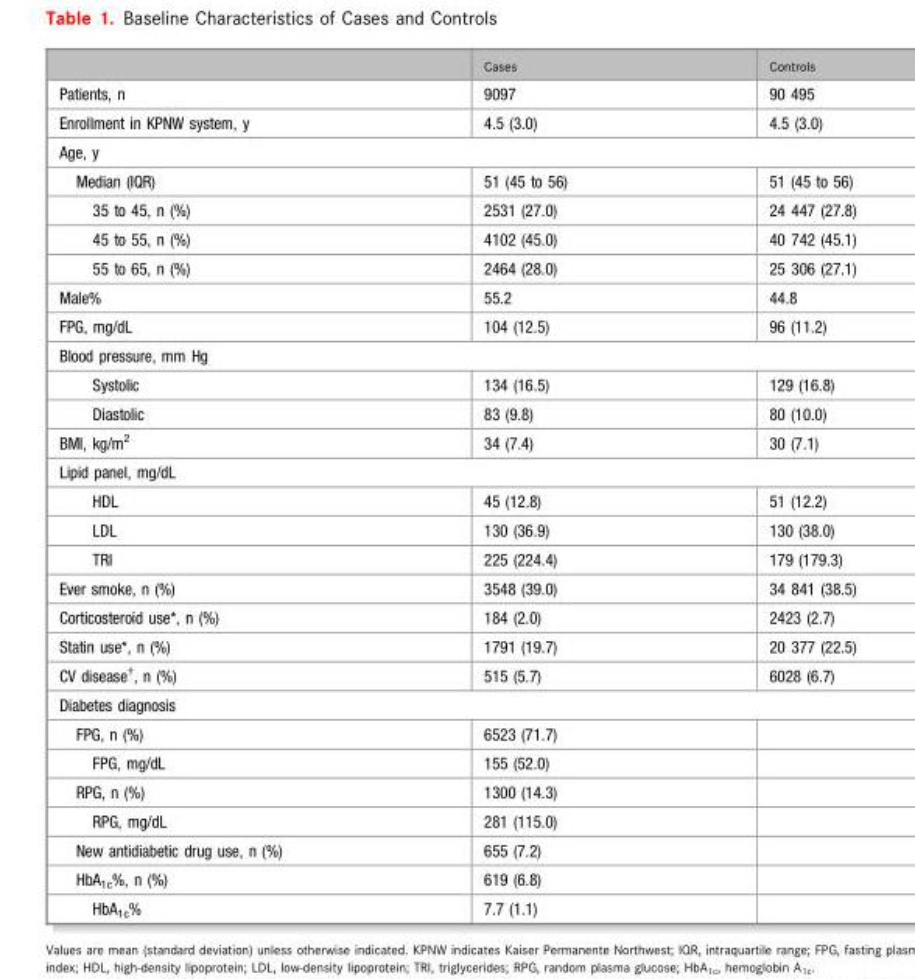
<table><thead><tr><td></td><td>Cases</td><td>Controls</td></tr></thead><tbody><tr><td>Patients, n</td><td>9097</td><td>90 495</td></tr><tr><td>Enrollment in KPNW system, y</td><td>4.5 (3.0)</td><td>4.5 (3.0)</td></tr><tr><td colspan="3">Age, y</td></tr><tr><td>Median (IQR)</td><td>51 (45 to 56)</td><td>51 (45 to 56)</td></tr><tr><td>35 to 45, n (%)</td><td>2531 (27.0)</td><td>24 447 (27.8)</td></tr><tr><td>45 to 55, n (%)</td><td>4102 (45.0)</td><td>40 742 (45.1)</td></tr><tr><td>55 to 65, n (%)</td><td>2464 (28.0)</td><td>25 306 (27.1)</td></tr><tr><td>Male%</td><td>55.2</td><td>44.8</td></tr><tr><td>FPG, mg/dL</td><td>104 (12.5)</td><td>96 (11.2)</td></tr><tr><td colspan="3">Blood pressure, mm Hg</td></tr><tr><td>Systolic</td><td>134 (16.5)</td><td>129 (16.8)</td></tr><tr><td>Diastolic</td><td>83 (9.8)</td><td>80 (10.0)</td></tr><tr><td>BMI, kg/m<sup>2</sup></td><td>34 (7.4)</td><td>30 (7.1)</td></tr><tr><td colspan="3">Lipid panel, mg/dL</td></tr><tr><td>HDL</td><td>45 (12.8)</td><td>51 (12.2)</td></tr><tr><td>LDL</td><td>130 (36.9)</td><td>130 (38.0)</td></tr><tr><td>TRI</td><td>225 (224.4)</td><td>179 (179.3)</td></tr><tr><td>Ever smoke, n (%)</td><td>3548 (39.0)</td><td>34 841 (38.5)</td></tr><tr><td>Corticosteroid use*, n (%)</td><td>184 (2.0)</td><td>2423 (2.7)</td></tr><tr><td>Statin use*, n (%)</td><td>1791 (19.7)</td><td>20 377 (22.5)</td></tr><tr><td>CV disease†, n (%)</td><td>515 (5.7)</td><td>6028 (6.7)</td></tr><tr><td colspan="3">Diabetes diagnosis</td></tr><tr><td>FPG, n (%)</td><td>6523 (71.7)</td><td></td></tr><tr><td>FPG, mg/dL</td><td>155 (52.0)</td><td></td></tr><tr><td>RPG, n (%)</td><td>1300 (14.3)</td><td></td></tr><tr><td>RPG, mg/dL</td><td>281 (115.0)</td><td></td></tr><tr><td>New antidiabetic drug use, n (%)</td><td>655 (7.2)</td><td></td></tr><tr><td>HbA<sub>1c</sub>%, n (%)</td><td>619 (6.8)</td><td></td></tr><tr><td>HbA<sub>1c</sub>%</td><td>7.7 (1.1)</td><td></td></tr></tbody></table>